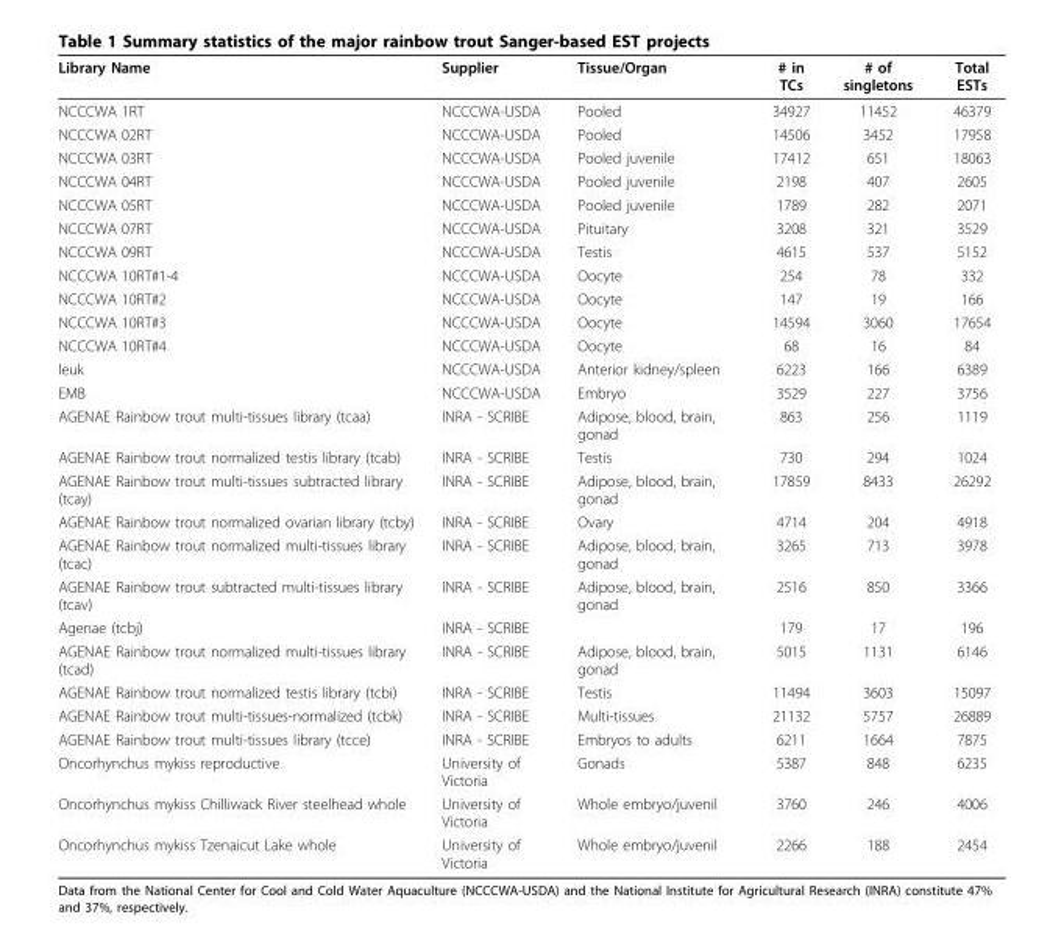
<table><thead><tr><td>Library Name</td><td>Supplier</td><td>Tissue/Organ</td><td># in TCs</td><td># of singletons</td><td>Total ESTs</td></tr></thead><tbody><tr><td>NCCCWA 1RT</td><td>NCCCWA-USDA</td><td>Pooled</td><td>34927</td><td>11452</td><td>46379</td></tr><tr><td>NCCCWA 02RT</td><td>NCCCWA-USDA</td><td>Pooled</td><td>14506</td><td>3452</td><td>17958</td></tr><tr><td>NCCCWA 03RT</td><td>NCCCWA-USDA</td><td>Pooled juvenile</td><td>17412</td><td>651</td><td>18063</td></tr><tr><td>NCCCWA 04RT</td><td>NCCCWA-USDA</td><td>Pooled juvenile</td><td>2198</td><td>407</td><td>2605</td></tr><tr><td>NCCCWA 05RT</td><td>NCCCWA-USDA</td><td>Pooled juvenile</td><td>1789</td><td>282</td><td>2071</td></tr><tr><td>NCCCWA 07RT</td><td>NCCCWA-USDA</td><td>Pituitary</td><td>3208</td><td>321</td><td>3529</td></tr><tr><td>NCCCWA 09RT</td><td>NCCCWA-USDA</td><td>Testis</td><td>4615</td><td>537</td><td>5152</td></tr><tr><td>NCCCWA 10RT#1-4</td><td>NCCCWA-USDA</td><td>Oocyte</td><td>254</td><td>78</td><td>332</td></tr><tr><td>NCCCWA 10RT#2</td><td>NCCCWA-USDA</td><td>Oocyte</td><td>147</td><td>19</td><td>166</td></tr><tr><td>NCCCWA 10RT#3</td><td>NCCCWA-USDA</td><td>Oocyte</td><td>14594</td><td>3060</td><td>17654</td></tr><tr><td>NCCCWA 10RT#4</td><td>NCCCWA-USDA</td><td>Oocyte</td><td>68</td><td>16</td><td>84</td></tr><tr><td>leuk</td><td>NCCCWA-USDA</td><td>Anterior kidney/spleen</td><td>6223</td><td>166</td><td>6389</td></tr><tr><td>EMB</td><td>NCCCWA-USDA</td><td>Embryo</td><td>3529</td><td>227</td><td>3756</td></tr><tr><td>AGENAE Rainbow trout multi-tissues library (tcaa)</td><td>INRA - SCRIBE</td><td>Adipose, blood, brain, gonad</td><td>863</td><td>256</td><td>1119</td></tr><tr><td>AGENAE Rainbow trout normalized testis library (tcab)</td><td>INRA - SCRIBE</td><td>Testis</td><td>730</td><td>294</td><td>1024</td></tr><tr><td>AGENAE Rainbow trout multi-tissues subtracted library (tcay)</td><td>INRA - SCRIBE</td><td>Adipose, blood, brain, gonad</td><td>17859</td><td>8433</td><td>26292</td></tr><tr><td>AGENAE Rainbow trout normalized ovarian library (tcby)</td><td>INRA - SCRIBE</td><td>Ovary</td><td>4714</td><td>204</td><td>4918</td></tr><tr><td>AGENAE Rainbow trout normalized multi-tissues library (tcac)</td><td>INRA - SCRIBE</td><td>Adipose, blood, brain, gonad</td><td>3265</td><td>713</td><td>3978</td></tr><tr><td>AGENAE Rainbow trout subtracted multi-tissues library (tcav)</td><td>INRA - SCRIBE</td><td>Adipose, blood, brain, gonad</td><td>2516</td><td>850</td><td>3366</td></tr><tr><td>Agenae (tcbj)</td><td>INRA - SCRIBE</td><td></td><td>179</td><td>17</td><td>196</td></tr><tr><td>AGENAE Rainbow trout normalized multi-tissues library (tcad)</td><td>INRA - SCRIBE</td><td>Adipose, blood, brain, gonad</td><td>5015</td><td>1131</td><td>6146</td></tr><tr><td>AGENAE Rainbow trout normalized testis library (tcbi)</td><td>INRA - SCRIBE</td><td>Testis</td><td>11494</td><td>3603</td><td>15097</td></tr><tr><td>AGENAE Rainbow trout multi-tissues-normalized (tcbk)</td><td>INRA - SCRIBE</td><td>Multi-tissues</td><td>21132</td><td>5757</td><td>26889</td></tr><tr><td>AGENAE Rainbow trout multi-tissues library (tcce)</td><td>INRA - SCRIBE</td><td>Embryos to adults</td><td>6211</td><td>1664</td><td>7875</td></tr><tr><td>Oncorhynchus mykiss reproductive</td><td>University of Victoria</td><td>Gonads</td><td>5387</td><td>848</td><td>6235</td></tr><tr><td>Oncorhynchus mykiss Chilliwack River steelhead whole</td><td>University of Victoria</td><td>Whole embryo/juvenil</td><td>3760</td><td>246</td><td>4006</td></tr><tr><td>Oncorhynchus mykiss Tzenaicut Lake whole</td><td>University of Victoria</td><td>Whole embryo/juvenil</td><td>2266</td><td>188</td><td>2454</td></tr></tbody></table>